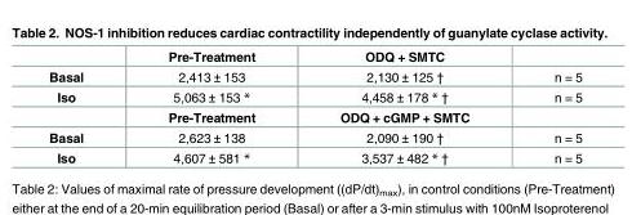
<table><thead><tr><td></td><td>Pre-Treatment</td><td>ODQ + SMTC</td><td></td></tr></thead><tbody><tr><td>Basal</td><td>2,413 ± 153</td><td>2,130 ± 125 †</td><td>n = 5</td></tr><tr><td rowspan="2">Iso</td><td>5,063 ± 153 *</td><td>4,458 ± 178 * †</td><td>n = 5</td></tr><tr><td>Pre-Treatment</td><td>ODQ + cGMP + SMTC</td><td></td></tr><tr><td>Basal</td><td>2,623 ± 138</td><td>2,090 ± 190 †</td><td>n = 5</td></tr><tr><td>Iso</td><td>4,607 ± 581 *</td><td>3,537 ± 482 * †</td><td>n = 5</td></tr></tbody></table>